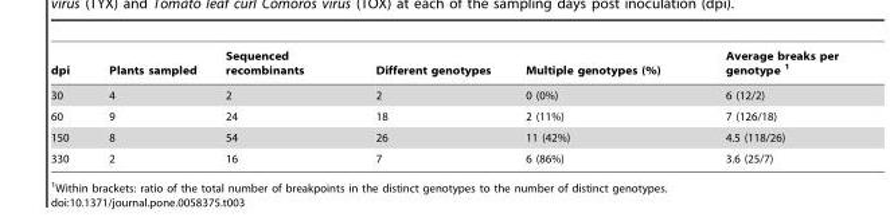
<table><thead><tr><td>dpi</td><td>Plants sampled</td><td>Sequenced recombinants</td><td>Different genotypes</td><td>Multiple genotypes (%)</td><td>Average breaks per genotype 1</td></tr></thead><tbody><tr><td>30</td><td>4</td><td>2</td><td>2</td><td>0 (0%)</td><td>6 (12/2)</td></tr><tr><td>60</td><td>9</td><td>24</td><td>18</td><td>2 (11%)</td><td>7 (126/18)</td></tr><tr><td>150</td><td>8</td><td>54</td><td>26</td><td>11 (42%)</td><td>4.5 (118/26)</td></tr><tr><td>330</td><td>2</td><td>16</td><td>7</td><td>6 (86%)</td><td>3.6 (25/7)</td></tr></tbody></table>